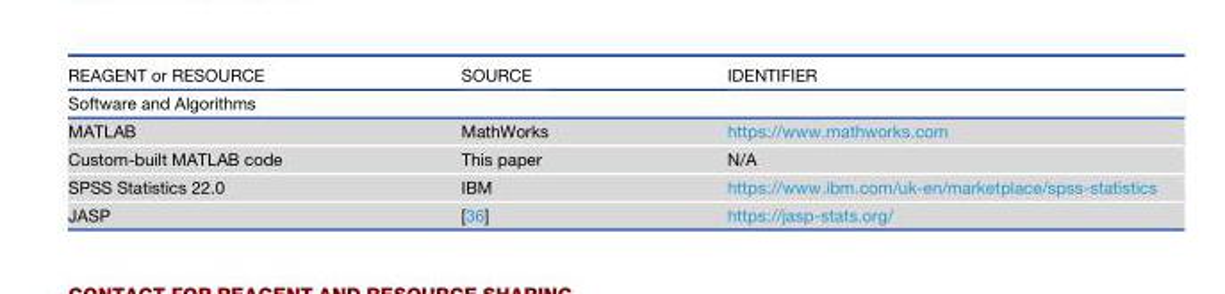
<table><thead><tr><td>REAGENT or RESOURCE</td><td>SOURCE</td><td>IDENTIFIER</td></tr></thead><tbody><tr><td colspan="3">Software and Algorithms</td></tr><tr><td>MATLAB</td><td>MathWorks</td><td>https://www.mathworks.com</td></tr><tr><td>Custom-built MATLAB code</td><td>This paper</td><td>N/A</td></tr><tr><td>SPSS Statistics 22.0</td><td>IBM</td><td>https://www.ibm.com/uk-en/marketplace/spss-statistics</td></tr><tr><td>JASP</td><td>[36]</td><td>https://jasp-stats.org/</td></tr></tbody></table>